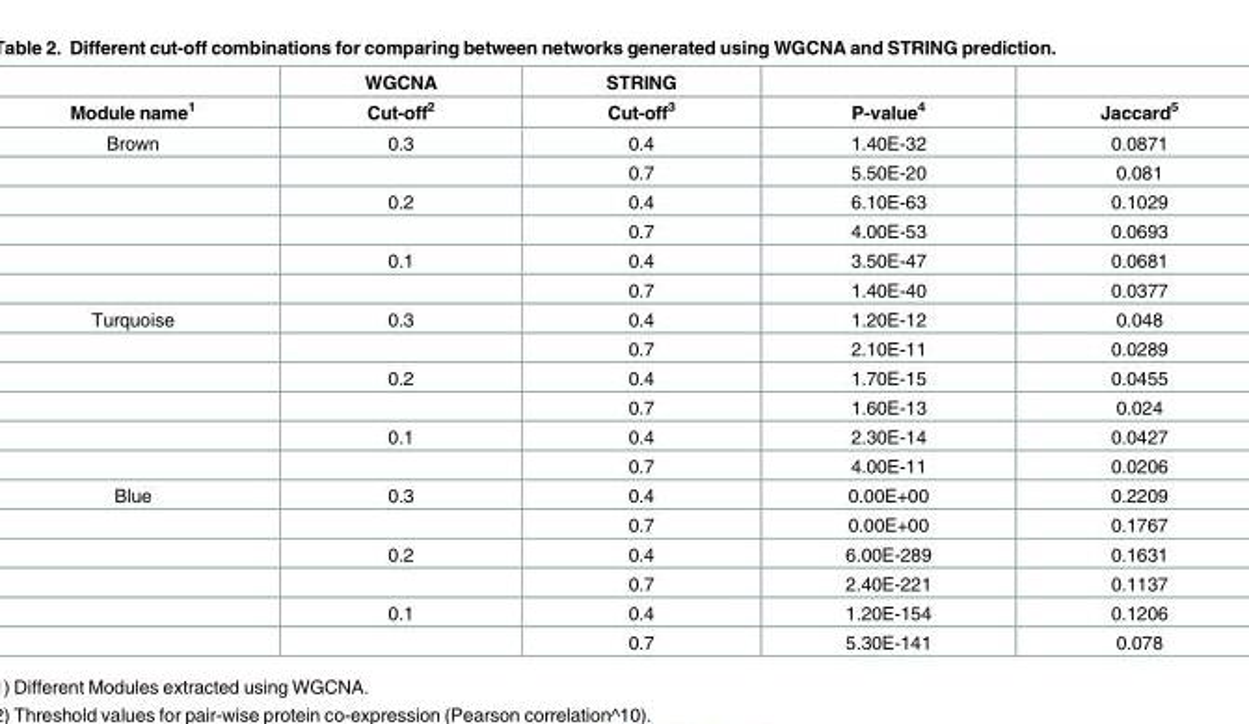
<table><thead><tr><td rowspan="2">Module name<sup>1</sup></td><td rowspan="2">WGCNA Cut-off<sup>2</sup></td><td rowspan="2">STRING Cut-off<sup>3</sup></td><td rowspan="2">P-value<sup>4</sup></td><td rowspan="2">Jaccard<sup>5</sup></td></tr><tr></tr></thead><tbody><tr><td rowspan="6">Brown</td><td>0.3</td><td>0.4</td><td>1.40E-32</td><td>0.0871</td></tr><tr><td></td><td>0.7</td><td>5.50E-20</td><td>0.081</td></tr><tr><td>0.2</td><td>0.4</td><td>6.10E-63</td><td>0.1029</td></tr><tr><td></td><td>0.7</td><td>4.00E-53</td><td>0.0693</td></tr><tr><td>0.1</td><td>0.4</td><td>3.50E-47</td><td>0.0681</td></tr><tr><td></td><td>0.7</td><td>1.40E-40</td><td>0.0377</td></tr><tr><td rowspan="6">Turquoise</td><td>0.3</td><td>0.4</td><td>1.20E-12</td><td>0.048</td></tr><tr><td></td><td>0.7</td><td>2.10E-11</td><td>0.0289</td></tr><tr><td>0.2</td><td>0.4</td><td>1.70E-15</td><td>0.0455</td></tr><tr><td></td><td>0.7</td><td>1.60E-13</td><td>0.024</td></tr><tr><td>0.1</td><td>0.4</td><td>2.30E-14</td><td>0.0427</td></tr><tr><td></td><td>0.7</td><td>4.00E-11</td><td>0.0206</td></tr><tr><td rowspan="6">Blue</td><td>0.3</td><td>0.4</td><td>0.00E+00</td><td>0.2209</td></tr><tr><td></td><td>0.7</td><td>0.00E+00</td><td>0.1767</td></tr><tr><td>0.2</td><td>0.4</td><td>6.00E-289</td><td>0.1631</td></tr><tr><td></td><td>0.7</td><td>2.40E-221</td><td>0.1137</td></tr><tr><td>0.1</td><td>0.4</td><td>1.20E-154</td><td>0.1206</td></tr><tr><td></td><td>0.7</td><td>5.30E-141</td><td>0.078</td></tr></tbody></table>